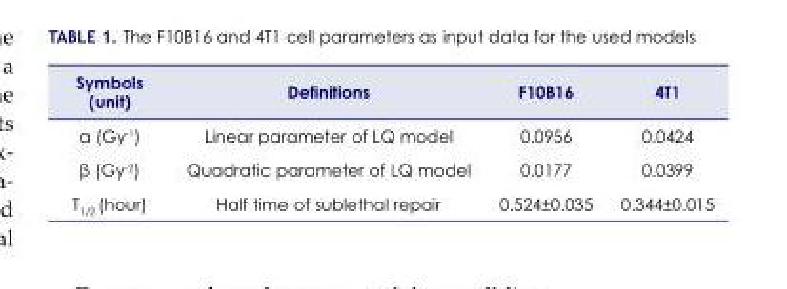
<table><thead><tr><td>Symbols (unit)</td><td>Definitions</td><td>F10B16</td><td>4T1</td></tr></thead><tbody><tr><td>α (Gy<sup>-1</sup>)</td><td>Linear parameter of LQ model</td><td>0.0956</td><td>0.0424</td></tr><tr><td>β (Gy<sup>-2</sup>)</td><td>Quadratic parameter of LQ model</td><td>0.0177</td><td>0.0399</td></tr><tr><td>T<sub>1/2</sub> (hour)</td><td>Half time of sublethal repair</td><td>0.524±0.035</td><td>0.344±0.015</td></tr></tbody></table>